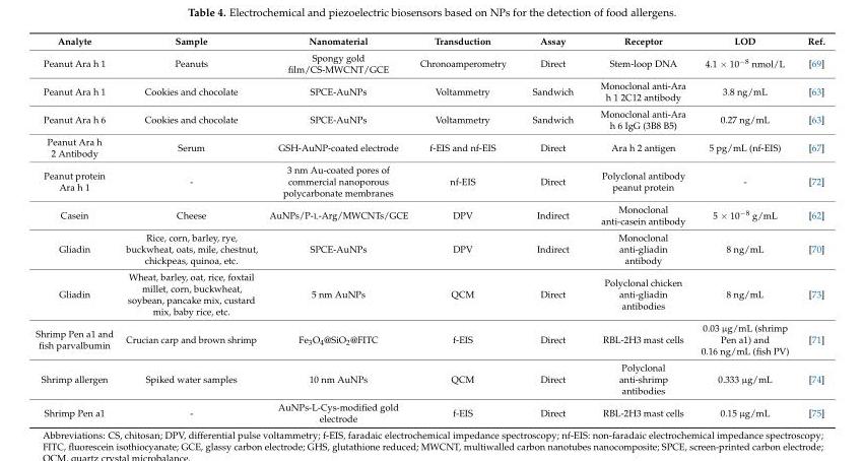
<table><thead><tr><td>Analyte</td><td>Sample</td><td>Nanomaterial</td><td>Transduction</td><td>Assay</td><td>Receptor</td><td>LOD</td><td>Ref.</td></tr></thead><tbody><tr><td>Peanut Ara h 1</td><td>Peanuts</td><td>Spongy gold film/CS-MWCNT/GCE</td><td>Chronoamperometry</td><td>Direct</td><td>Stem-loop DNA</td><td>4.1 × 10<sup>−8</sup> nmol/L</td><td>[69]</td></tr><tr><td>Peanut Ara h 1</td><td>Cookies and chocolate</td><td>SPCE-AuNPs</td><td>Voltammetry</td><td>Sandwich</td><td>Monoclonal anti-Ara h 1 2C12 antibody</td><td>3.8 ng/mL</td><td>[63]</td></tr><tr><td>Peanut Ara h 6</td><td>Cookies and chocolate</td><td>SPCE-AuNPs</td><td>Voltammetry</td><td>Sandwich</td><td>Monoclonal anti-Ara h 6 IgG (3B8 B5)</td><td>0.27 ng/mL</td><td>[63]</td></tr><tr><td>Peanut Ara h 2 Antibody</td><td>Serum</td><td>GSH-AuNP-coated electrode</td><td>f-EIS and nf-EIS</td><td>Direct</td><td>Ara h 2 antigen</td><td>5 pg/mL (nf-EIS)</td><td>[67]</td></tr><tr><td>Peanut protein Ara h 1</td><td>-</td><td>3 nm Au-coated pores of commercial nanoporous polycarbonate membranes</td><td>nf-EIS</td><td>Direct</td><td>Polyclonal antibody peanut protein</td><td>-</td><td>[72]</td></tr><tr><td>Casein</td><td>Cheese</td><td>AuNPs/P-L-Arg/MWCNTs/GCE</td><td>DPV</td><td>Indirect</td><td>Monoclonal anti-casein antibody</td><td>5 × 10<sup>−8</sup> g/mL</td><td>[62]</td></tr><tr><td>Gliadin</td><td>Rice, corn, barley, rye, buckwheat, oats, mile, chestnut, chickpeas, quinoa, etc.</td><td>SPCE-AuNPs</td><td>DPV</td><td>Indirect</td><td>Monoclonal anti-gliadin antibody</td><td>8 ng/mL</td><td>[70]</td></tr><tr><td>Gliadin</td><td>Wheat, barley, oat, rice, foxtail millet, corn, buckwheat, soybean, pancake mix, custard mix, baby rice, etc.</td><td>5 nm AuNPs</td><td>QCM</td><td>Direct</td><td>Polyclonal chicken anti-gliadin antibodies</td><td>8 ng/mL</td><td>[73]</td></tr><tr><td>Shrimp Pen a1 and fish parvalbumin</td><td>Crucian carp and brown shrimp</td><td>Fe<sub>3</sub>O<sub>4</sub>@SiO<sub>2</sub>@FITC</td><td>f-EIS</td><td>Direct</td><td>RBL-2H3 mast cells</td><td>0.03 µg/mL (shrimp Pen a1) and 0.16 ng/mL (fish PV)</td><td>[71]</td></tr><tr><td>Shrimp allergen</td><td>Spiked water samples</td><td>10 nm AuNPs</td><td>QCM</td><td>Direct</td><td>Polyclonal anti-shrimp antibodies</td><td>0.333 µg/mL</td><td>[74]</td></tr><tr><td>Shrimp Pen a1</td><td>-</td><td>AuNPs-L-Cys-modified gold electrode</td><td>f-EIS</td><td>Direct</td><td>RBL-2H3 mast cells</td><td>0.15 µg/mL</td><td>[75]</td></tr></tbody></table>